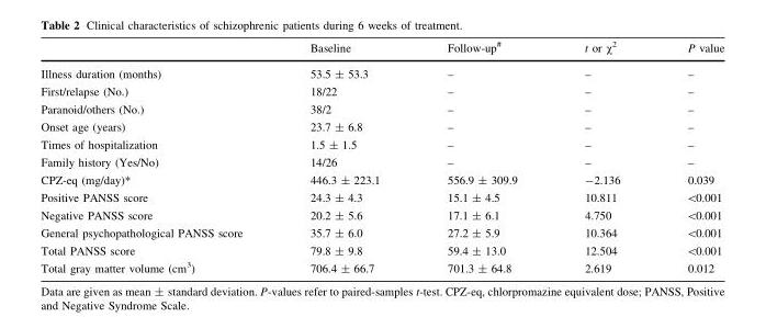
<table><thead><tr><td></td><td>Baseline</td><td>Follow-up<sup>#</sup></td><td>t or χ<sup>2</sup></td><td>P value</td></tr></thead><tbody><tr><td>Illness duration (months)</td><td>53.5 ± 53.3</td><td>–</td><td>–</td><td>–</td></tr><tr><td>First/relapse (No.)</td><td>18/22</td><td>–</td><td>–</td><td>–</td></tr><tr><td>Paranoid/others (No.)</td><td>38/2</td><td>–</td><td>–</td><td>–</td></tr><tr><td>Onset age (years)</td><td>23.7 ± 6.8</td><td>–</td><td>–</td><td>–</td></tr><tr><td>Times of hospitalization</td><td>1.5 ± 1.5</td><td>–</td><td>–</td><td>–</td></tr><tr><td>Family history (Yes/No)</td><td>14/26</td><td>–</td><td>–</td><td>–</td></tr><tr><td>CPZ-eq (mg/day)*</td><td>446.3 ± 223.1</td><td>556.9 ± 309.9</td><td>-2.136</td><td>0.039</td></tr><tr><td>Positive PANSS score</td><td>24.3 ± 4.3</td><td>15.1 ± 4.5</td><td>10.811</td><td>&lt;0.001</td></tr><tr><td>Negative PANSS score</td><td>20.2 ± 5.6</td><td>17.1 ± 6.1</td><td>4.750</td><td>&lt;0.001</td></tr><tr><td>General psychopathological PANSS score</td><td>35.7 ± 6.0</td><td>27.2 ± 5.9</td><td>10.364</td><td>&lt;0.001</td></tr><tr><td>Total PANSS score</td><td>79.8 ± 9.8</td><td>59.4 ± 13.0</td><td>12.504</td><td>&lt;0.001</td></tr><tr><td>Total gray matter volume (cm<sup>3</sup>)</td><td>706.4 ± 66.7</td><td>701.3 ± 64.8</td><td>2.619</td><td>0.012</td></tr></tbody></table>